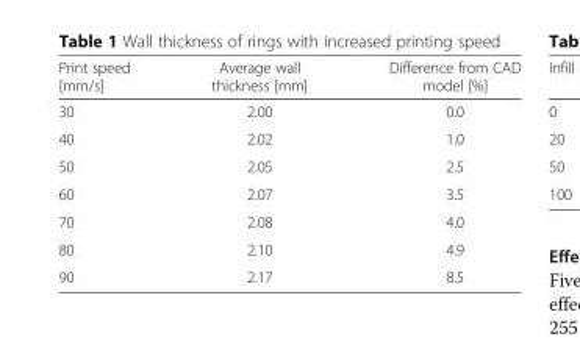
<table><thead><tr><td>Print speed [mm/s]</td><td>Average wall thickness [mm]</td><td>Difference from CAD model [%]</td></tr></thead><tbody><tr><td>30</td><td>2.00</td><td>0.0</td></tr><tr><td>40</td><td>2.02</td><td>1.0</td></tr><tr><td>50</td><td>2.05</td><td>2.5</td></tr><tr><td>60</td><td>2.07</td><td>3.5</td></tr><tr><td>70</td><td>2.08</td><td>4.0</td></tr><tr><td>80</td><td>2.10</td><td>4.9</td></tr><tr><td>90</td><td>2.17</td><td>8.5</td></tr></tbody></table>